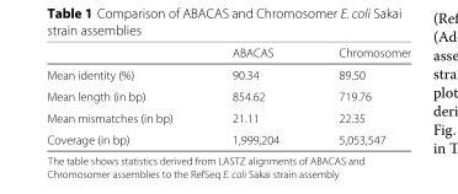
<table><thead><tr><td></td><td>ABACAS</td><td>Chromosomer</td></tr></thead><tbody><tr><td>Mean identity (%)</td><td>90.34</td><td>89.50</td></tr><tr><td>Mean length (in bp)</td><td>854.62</td><td>719.76</td></tr><tr><td>Mean mismatches (in bp)</td><td>21.11</td><td>22.35</td></tr><tr><td>Coverage (in bp)</td><td>1,999,204</td><td>5,053,547</td></tr></tbody></table>